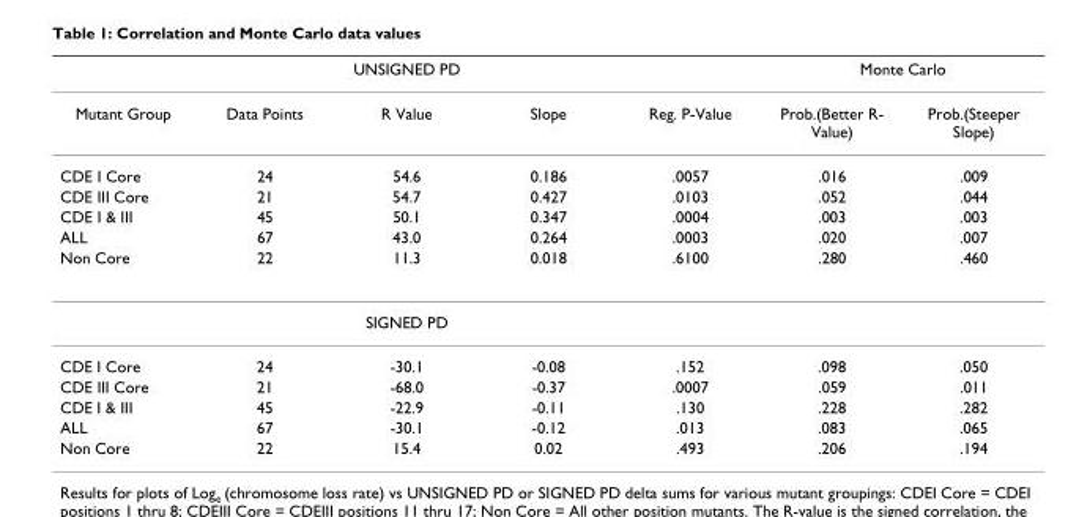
<table><thead><tr><td colspan="5">UNSIGNED PD</td><td colspan="2">Monte Carlo</td></tr><tr><td>Mutant Group</td><td>Data Points</td><td>R Value</td><td>Slope</td><td>Reg. P-Value</td><td>Prob.(Better R- Value)</td><td>Prob.(Steeper Slope)</td></tr></thead><tbody><tr><td>CDE I Core</td><td>24</td><td>54.6</td><td>0.186</td><td>.0057</td><td>.016</td><td>.009</td></tr><tr><td>CDE III Core</td><td>21</td><td>54.7</td><td>0.427</td><td>.0103</td><td>.052</td><td>.044</td></tr><tr><td>CDE I &amp; III</td><td>45</td><td>50.1</td><td>0.347</td><td>.0004</td><td>.003</td><td>.003</td></tr><tr><td>ALL</td><td>67</td><td>43.0</td><td>0.264</td><td>.0003</td><td>.020</td><td>.007</td></tr><tr><td>Non Core</td><td>22</td><td>11.3</td><td>0.018</td><td>.6100</td><td>.280</td><td>.460</td></tr><tr><td colspan="7">SIGNED PD</td></tr><tr><td>CDE I Core</td><td>24</td><td>-30.1</td><td>-0.08</td><td>.152</td><td>.098</td><td>.050</td></tr><tr><td>CDE III Core</td><td>21</td><td>-68.0</td><td>-0.37</td><td>.0007</td><td>.059</td><td>.011</td></tr><tr><td>CDE I &amp; III</td><td>45</td><td>-22.9</td><td>-0.11</td><td>.130</td><td>.228</td><td>.282</td></tr><tr><td>ALL</td><td>67</td><td>-30.1</td><td>-0.12</td><td>.013</td><td>.083</td><td>.065</td></tr><tr><td>Non Core</td><td>22</td><td>15.4</td><td>0.02</td><td>.493</td><td>.206</td><td>.194</td></tr></tbody></table>